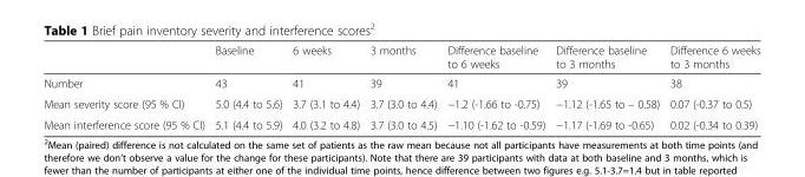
<table><thead><tr><td></td><td>Baseline</td><td>6 weeks</td><td>3 months</td><td>Difference baseline to 6 weeks</td><td>Difference baseline to 3 months</td><td>Difference 6 weeks to 3 months</td></tr></thead><tbody><tr><td>Number</td><td>43</td><td>41</td><td>39</td><td>41</td><td>39</td><td>38</td></tr><tr><td>Mean severity score (95 % CI)</td><td>5.0 (4.4 to 5.6)</td><td>3.7 (3.1 to 4.4)</td><td>3.7 (3.0 to 4.4)</td><td>−1.2 (-1.66 to -0.75)</td><td>−1.12 (-1.65 to – 0.58)</td><td>0.07 (-0.37 to 0.5)</td></tr><tr><td>Mean interference score (95 % CI)</td><td>5.1 (4.4 to 5.9)</td><td>4.0 (3.2 to 4.8)</td><td>3.7 (3.0 to 4.5)</td><td>−1.10 (-1.62 to -0.59)</td><td>−1.17 (-1.69 to -0.65)</td><td>0.02 (-0.34 to 0.39)</td></tr></tbody></table>